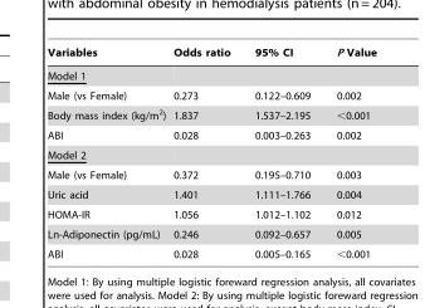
<table><thead><tr><td>Variables</td><td>Odds ratio</td><td>95% CI</td><td>P Value</td></tr></thead><tbody><tr><td colspan="4">Model 1</td></tr><tr><td>Male (vs Female)</td><td>0.273</td><td>0.122–0.609</td><td>0.002</td></tr><tr><td>Body mass index (kg/m<sup>2</sup>)</td><td>1.837</td><td>1.537–2.195</td><td>&lt;0.001</td></tr><tr><td>ABI</td><td>0.028</td><td>0.003–0.263</td><td>0.002</td></tr><tr><td colspan="4">Model 2</td></tr><tr><td>Male (vs Female)</td><td>0.372</td><td>0.195–0.710</td><td>0.003</td></tr><tr><td>Uric acid</td><td>1.401</td><td>1.111–1.766</td><td>0.004</td></tr><tr><td>HOMA-IR</td><td>1.056</td><td>1.012–1.102</td><td>0.012</td></tr><tr><td>Ln-Adiponectin (pg/mL)</td><td>0.246</td><td>0.092–0.657</td><td>0.005</td></tr><tr><td>ABI</td><td>0.028</td><td>0.005–0.165</td><td>&lt;0.001</td></tr></tbody></table>